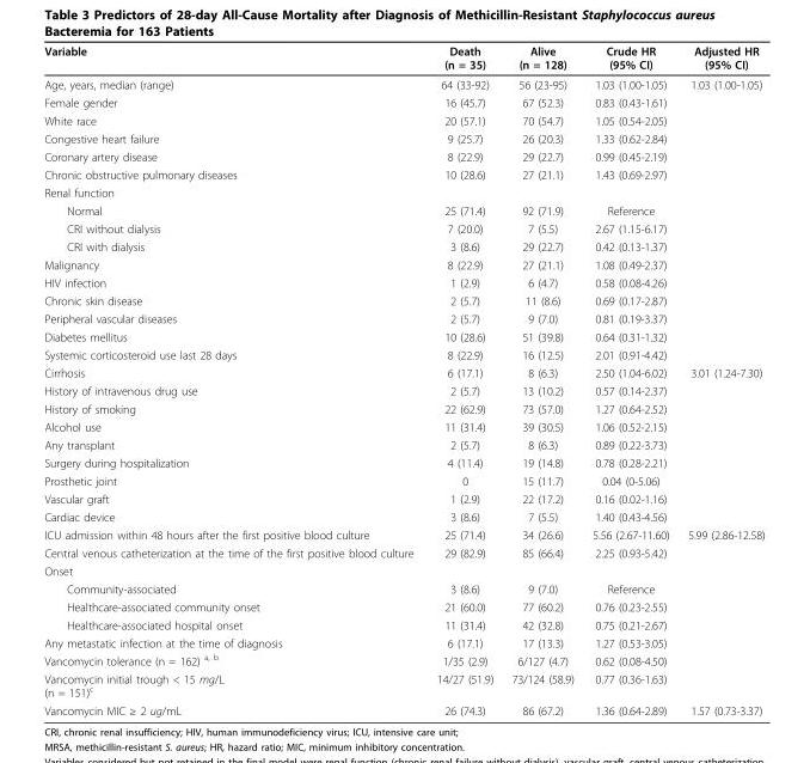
<table><thead><tr><td>Variable</td><td>Death (n = 35)</td><td>Alive (n = 128)</td><td>Crude HR (95% CI)</td><td>Adjusted HR (95% CI)</td></tr></thead><tbody><tr><td>Age, years, median (range)</td><td>64 (33-92)</td><td>56 (23-95)</td><td>1.03 (1.00-1.05)</td><td>1.03 (1.00-1.05)</td></tr><tr><td>Female gender</td><td>16 (45.7)</td><td>67 (52.3)</td><td>0.83 (0.43-1.61)</td><td></td></tr><tr><td>White race</td><td>20 (57.1)</td><td>70 (54.7)</td><td>1.05 (0.54-2.05)</td><td></td></tr><tr><td>Congestive heart failure</td><td>9 (25.7)</td><td>26 (20.3)</td><td>1.33 (0.62-2.84)</td><td></td></tr><tr><td>Coronary artery disease</td><td>8 (22.9)</td><td>29 (22.7)</td><td>0.99 (0.45-2.19)</td><td></td></tr><tr><td>Chronic obstructive pulmonary diseases</td><td>10 (28.6)</td><td>27 (21.1)</td><td>1.43 (0.69-2.97)</td><td></td></tr><tr><td colspan="5">Renal function</td></tr><tr><td>Normal</td><td>25 (71.4)</td><td>92 (71.9)</td><td>Reference</td><td></td></tr><tr><td>CRI without dialysis</td><td>7 (20.0)</td><td>7 (5.5)</td><td>2.67 (1.15-6.17)</td><td></td></tr><tr><td>CRI with dialysis</td><td>3 (8.6)</td><td>29 (22.7)</td><td>0.42 (0.13-1.37)</td><td></td></tr><tr><td>Malignancy</td><td>8 (22.9)</td><td>27 (21.1)</td><td>1.08 (0.49-2.37)</td><td></td></tr><tr><td>HIV infection</td><td>1 (2.9)</td><td>6 (4.7)</td><td>0.58 (0.08-4.26)</td><td></td></tr><tr><td>Chronic skin disease</td><td>2 (5.7)</td><td>11 (8.6)</td><td>0.69 (0.17-2.87)</td><td></td></tr><tr><td>Peripheral vascular diseases</td><td>2 (5.7)</td><td>9 (7.0)</td><td>0.81 (0.19-3.37)</td><td></td></tr><tr><td>Diabetes mellitus</td><td>10 (28.6)</td><td>51 (39.8)</td><td>0.64 (0.31-1.32)</td><td></td></tr><tr><td>Systemic corticosteroid use last 28 days</td><td>8 (22.9)</td><td>16 (12.5)</td><td>2.01 (0.91-4.42)</td><td></td></tr><tr><td>Cirrhosis</td><td>6 (17.1)</td><td>8 (6.3)</td><td>2.50 (1.04-6.02)</td><td>3.01 (1.24-7.30)</td></tr><tr><td>History of intravenous drug use</td><td>2 (5.7)</td><td>13 (10.2)</td><td>0.57 (0.14-2.37)</td><td></td></tr><tr><td>History of smoking</td><td>22 (62.9)</td><td>73 (57.0)</td><td>1.27 (0.64-2.52)</td><td></td></tr><tr><td>Alcohol use</td><td>11 (31.4)</td><td>39 (30.5)</td><td>1.06 (0.52-2.15)</td><td></td></tr><tr><td>Any transplant</td><td>2 (5.7)</td><td>8 (6.3)</td><td>0.89 (0.22-3.73)</td><td></td></tr><tr><td>Surgery during hospitalization</td><td>4 (11.4)</td><td>19 (14.8)</td><td>0.78 (0.28-2.21)</td><td></td></tr><tr><td>Prosthetic joint</td><td>0</td><td>15 (11.7)</td><td>0.04 (0-5.06)</td><td></td></tr><tr><td>Vascular graft</td><td>1 (2.9)</td><td>22 (17.2)</td><td>0.16 (0.02-1.16)</td><td></td></tr><tr><td>Cardiac device</td><td>3 (8.6)</td><td>7 (5.5)</td><td>1.40 (0.43-4.56)</td><td></td></tr><tr><td>ICU admission within 48 hours after the first positive blood culture</td><td>25 (71.4)</td><td>34 (26.6)</td><td>5.56 (2.67-11.60)</td><td>5.99 (2.86-12.58)</td></tr><tr><td>Central venous catheterization at the time of the first positive blood culture</td><td>29 (82.9)</td><td>85 (66.4)</td><td>2.25 (0.93-5.42)</td><td></td></tr><tr><td colspan="5">Onset</td></tr><tr><td>Community-associated</td><td>3 (8.6)</td><td>9 (7.0)</td><td>Reference</td><td></td></tr><tr><td>Healthcare-associated community onset</td><td>21 (60.0)</td><td>77 (60.2)</td><td>0.76 (0.23-2.55)</td><td></td></tr><tr><td>Healthcare-associated hospital onset</td><td>11 (31.4)</td><td>42 (32.8)</td><td>0.75 (0.21-2.67)</td><td></td></tr><tr><td>Any metastatic infection at the time of diagnosis</td><td>6 (17.1)</td><td>17 (13.3)</td><td>1.27 (0.53-3.05)</td><td></td></tr><tr><td>Vancomycin tolerance (n = 162) <sup>a, b</sup></td><td>1/35 (2.9)</td><td>6/127 (4.7)</td><td>0.62 (0.08-4.50)</td><td></td></tr><tr><td>Vancomycin initial trough &lt; 15 mg/L (n = 151)<sup>c</sup></td><td>14/27 (51.9)</td><td>73/124 (58.9)</td><td>0.77 (0.36-1.63)</td><td></td></tr><tr><td>Vancomycin MIC ≥ 2 ug/mL</td><td>26 (74.3)</td><td>86 (67.2)</td><td>1.36 (0.64-2.89)</td><td>1.57 (0.73-3.37)</td></tr></tbody></table>